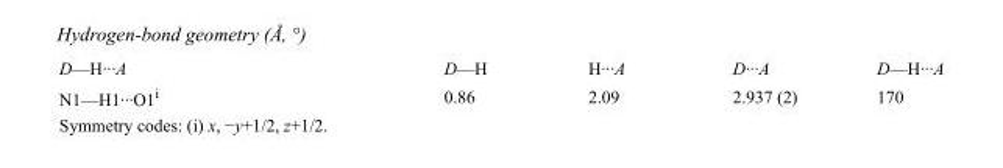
<table><tbody><tr><td>D—H···A</td><td>D—H</td><td>H···A</td><td>D···A</td><td>D—H···A</td></tr><tr><td>N1—H1···O1<sup>i</sup></td><td>0.86</td><td>2.09</td><td>2.937 (2)</td><td>170</td></tr></tbody></table>